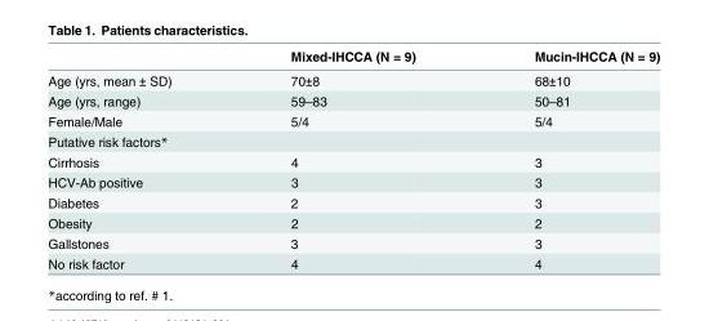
<table><thead><tr><td></td><td>Mixed-IHCCA (N = 9)</td><td>Mucin-IHCCA (N = 9)</td></tr></thead><tbody><tr><td>Age (yrs, mean ± SD)</td><td>70±8</td><td>68±10</td></tr><tr><td>Age (yrs, range)</td><td>59–83</td><td>50–81</td></tr><tr><td>Female/Male</td><td>5/4</td><td>5/4</td></tr><tr><td colspan="3">Putative risk factors*</td></tr><tr><td>Cirrhosis</td><td>4</td><td>3</td></tr><tr><td>HCV-Ab positive</td><td>3</td><td>3</td></tr><tr><td>Diabetes</td><td>2</td><td>3</td></tr><tr><td>Obesity</td><td>2</td><td>2</td></tr><tr><td>Gallstones</td><td>3</td><td>3</td></tr><tr><td>No risk factor</td><td>4</td><td>4</td></tr></tbody></table>